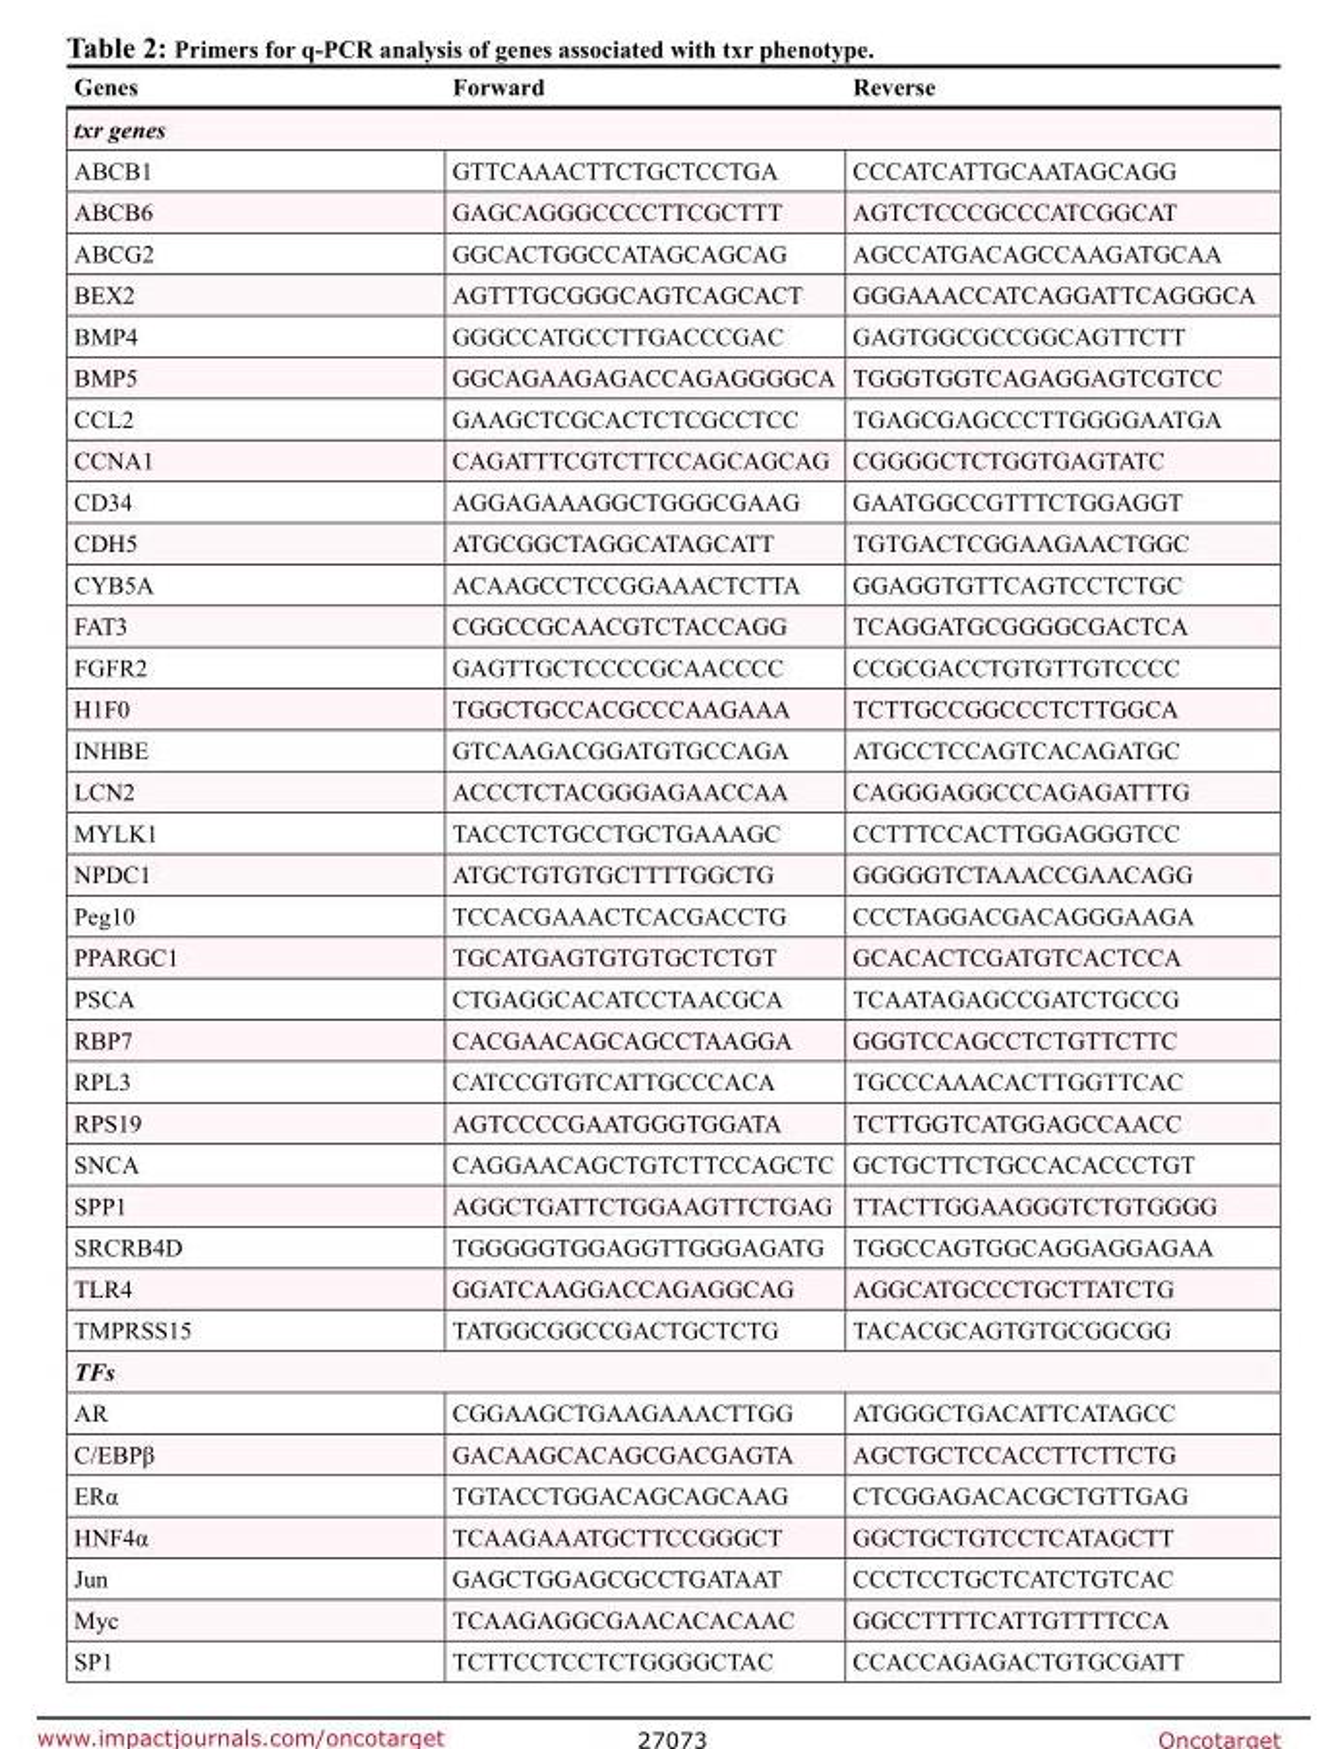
<table><thead><tr><td>Genes</td><td>Forward</td><td>Reverse</td></tr></thead><tbody><tr><td colspan="3">txr genes</td></tr><tr><td>ABCB1</td><td>GTTCAAACTTCTGCTCCTGA</td><td>CCCATCATTGCAATAGCAGG</td></tr><tr><td>ABCB6</td><td>GAGCAGGGCCCCTTCGCTTT</td><td>AGTCTCCCGCCCATCGGCAT</td></tr><tr><td>ABCG2</td><td>GGCACTGGCCATAGCAGCAG</td><td>AGCCATGACAGCCAAGATGCAA</td></tr><tr><td>BEX2</td><td>AGTTTGCGGGCAGTCAGCACT</td><td>GGGAAACCATCAGGATTCAGGGCA</td></tr><tr><td>BMP4</td><td>GGGCCATGCCTTGACCCGAC</td><td>GAGTGGCGCCGGCAGTTCTT</td></tr><tr><td>BMP5</td><td>GGCAGAAGAGACCAGAGGGGCA</td><td>TGGGTGGTCAGAGGAGTCGTCC</td></tr><tr><td>CCL2</td><td>GAAGCTCGCACTCTCGCCTCC</td><td>TGAGCGAGCCCTTGGGGAATGA</td></tr><tr><td>CCNA1</td><td>CAGATTTCGTCTTCCAGCAGCAG</td><td>CGGGGCTCTGGTGAGTATC</td></tr><tr><td>CD34</td><td>AGGAGAAAGGCTGGGCGAAG</td><td>GAATGGCCGTTTCTGGAGGT</td></tr><tr><td>CDH5</td><td>ATGCGGCTAGGCATAGCATT</td><td>TGTGACTCGGAAGAACTGGC</td></tr><tr><td>CYB5A</td><td>ACAAGCCTCCGGAAACTCTTA</td><td>GGAGGTGTTCAGTCCTCTGC</td></tr><tr><td>FAT3</td><td>CGGCCGCAACGTCTACCAGG</td><td>TCAGGATGCGGGGCGACTCA</td></tr><tr><td>FGFR2</td><td>GAGTTGCTCCCCGCAACCCC</td><td>CCGCGACCTGTGTTGTCCCC</td></tr><tr><td>H1F0</td><td>TGGCTGCCACGCCCAAGAAA</td><td>TCTTGCCGGCCCTCTTGGCA</td></tr><tr><td>INHBE</td><td>GTCAAGACGGATGTGCCAGA</td><td>ATGCCTCCAGTCACAGATGC</td></tr><tr><td>LCN2</td><td>ACCCTCTACGGGAGAACCAA</td><td>CAGGGAGGCCCAGAGATTTG</td></tr><tr><td>MYLK1</td><td>TACCTCTGCCTGCTGAAAGC</td><td>CCTTTCCACTTGGAGGGTCC</td></tr><tr><td>NPDC1</td><td>ATGCTGTGTGCTTTTGGCTG</td><td>GGGGGTCTAAACCGAACAGG</td></tr><tr><td>Peg10</td><td>TCCACGAAACTCACGACCTG</td><td>CCCTAGGACGACAGGGAAGA</td></tr><tr><td>PPARGC1</td><td>TGCATGAGTGTGTGCTCTGT</td><td>GCACACTCGATGTCACTCCA</td></tr><tr><td>PSCA</td><td>CTGAGGCACATCCTAACGCA</td><td>TCAATAGAGCCGATCTGCCG</td></tr><tr><td>RBP7</td><td>CACGAACAGCAGCCTAAGGA</td><td>GGGTCCAGCCTCTGTTCTTC</td></tr><tr><td>RPL3</td><td>CATCCGTGTCATTGCCCACA</td><td>TGCCCAAACACTTGGTTCAC</td></tr><tr><td>RPS19</td><td>AGTCCCCGAATGGGTGGATA</td><td>TCTTGGTCATGGAGCCAACC</td></tr><tr><td>SNCA</td><td>CAGGAACAGCTGTCTTCCAGCTC</td><td>GCTGCTTCTGCCACACCCTGT</td></tr><tr><td>SPP1</td><td>AGGCTGATTCTGGAAGTTCTGAG</td><td>TTACTTGGAAGGGTCTGTGGGG</td></tr><tr><td>SRCRB4D</td><td>TGGGGGTGGAGGTTGGGAGATG</td><td>TGGCCAGTGGCAGGAGGAGAA</td></tr><tr><td>TLR4</td><td>GGATCAAGGACCAGAGGCAG</td><td>AGGCATGCCCTGCTTATCTG</td></tr><tr><td>TMPRSS15</td><td>TATGGCGGCCGACTGCTCTG</td><td>TACACGCAGTGTGCGGCGG</td></tr><tr><td colspan="3">TFs</td></tr><tr><td>AR</td><td>CGGAAGCTGAAGAAACTTGG</td><td>ATGGGCTGACATTCATAGCC</td></tr><tr><td>C/EBPβ</td><td>GACAAGCACAGCGACGAGTA</td><td>AGCTGCTCCACCTTCTTCTG</td></tr><tr><td>ERα</td><td>TGTACCTGGACAGCAGCAAG</td><td>CTCGGAGACACGCTGTTGAG</td></tr><tr><td>HNF4α</td><td>TCAAGAAATGCTTCCGGGCT</td><td>GGCTGCTGTCCTCATAGCTT</td></tr><tr><td>Jun</td><td>GAGCTGGAGCGCCTGATAAT</td><td>CCCTCCTGCTCATCTGTCAC</td></tr><tr><td>Myc</td><td>TCAAGAGGCGAACACACAAC</td><td>GGCCTTTTCATTGTTTTCCA</td></tr><tr><td>SP1</td><td>TCTTCCTCCTCTGGGGCTAC</td><td>CCACCAGAGACTGTGCGATT</td></tr></tbody></table>